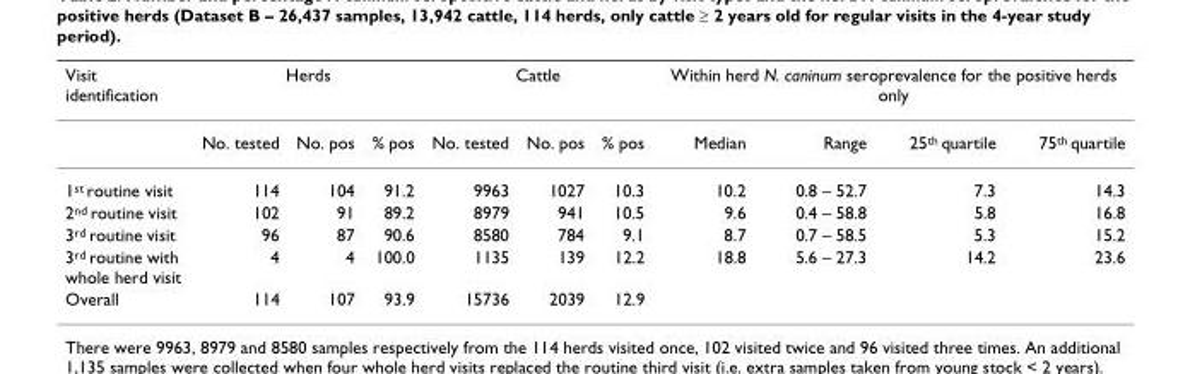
<table><thead><tr><td rowspan="2">Visit identification</td><td colspan="3">Herds</td><td colspan="3">Cattle</td><td colspan="4">Within herd N. caninum seroprevalence for the positive herds only</td></tr><tr><td>No. tested</td><td>No. pos</td><td>% pos</td><td>No. tested</td><td>No. pos</td><td>% pos</td><td>Median</td><td>Range</td><td>25<sup>th</sup> quartile</td><td>75<sup>th</sup> quartile</td></tr></thead><tbody><tr><td>1<sup>st</sup> routine visit</td><td>114</td><td>104</td><td>91.2</td><td>9963</td><td>1027</td><td>10.3</td><td>10.2</td><td>0.8 – 52.7</td><td>7.3</td><td>14.3</td></tr><tr><td>2<sup>nd</sup> routine visit</td><td>102</td><td>91</td><td>89.2</td><td>8979</td><td>941</td><td>10.5</td><td>9.6</td><td>0.4 – 58.8</td><td>5.8</td><td>16.8</td></tr><tr><td>3<sup>rd</sup> routine visit</td><td>96</td><td>87</td><td>90.6</td><td>8580</td><td>784</td><td>9.1</td><td>8.7</td><td>0.7 – 58.5</td><td>5.3</td><td>15.2</td></tr><tr><td>3<sup>rd</sup> routine with whole herd visit</td><td>4</td><td>4</td><td>100.0</td><td>1135</td><td>139</td><td>12.2</td><td>18.8</td><td>5.6 – 27.3</td><td>14.2</td><td>23.6</td></tr><tr><td>Overall</td><td>114</td><td>107</td><td>93.9</td><td>15736</td><td>2039</td><td>12.9</td><td></td><td></td><td></td><td></td></tr></tbody></table>